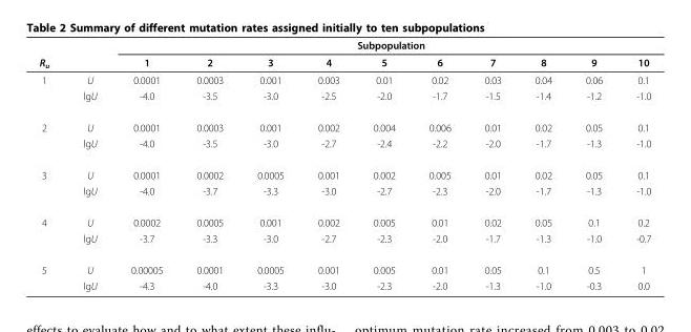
<table><thead><tr><td rowspan="2">R<sub>u</sub></td><td rowspan="2"></td><td colspan="10">Subpopulation</td></tr><tr><td>1</td><td>2</td><td>3</td><td>4</td><td>5</td><td>6</td><td>7</td><td>8</td><td>9</td><td>10</td></tr></thead><tbody><tr><td rowspan="2">1</td><td>U</td><td>0.0001</td><td>0.0003</td><td>0.001</td><td>0.003</td><td>0.01</td><td>0.02</td><td>0.03</td><td>0.04</td><td>0.06</td><td>0.1</td></tr><tr><td>lgU</td><td>-4.0</td><td>-3.5</td><td>-3.0</td><td>-2.5</td><td>-2.0</td><td>-1.7</td><td>-1.5</td><td>-1.4</td><td>-1.2</td><td>-1.0</td></tr><tr><td rowspan="2">2</td><td>U</td><td>0.0001</td><td>0.0003</td><td>0.001</td><td>0.002</td><td>0.004</td><td>0.006</td><td>0.01</td><td>0.02</td><td>0.05</td><td>0.1</td></tr><tr><td>lgU</td><td>-4.0</td><td>-3.5</td><td>-3.0</td><td>-2.7</td><td>-2.4</td><td>-2.2</td><td>-2.0</td><td>-1.7</td><td>-1.3</td><td>-1.0</td></tr><tr><td rowspan="2">3</td><td>U</td><td>0.0001</td><td>0.0002</td><td>0.0005</td><td>0.001</td><td>0.002</td><td>0.005</td><td>0.01</td><td>0.02</td><td>0.05</td><td>0.1</td></tr><tr><td>lgU</td><td>-4.0</td><td>-3.7</td><td>-3.3</td><td>-3.0</td><td>-2.7</td><td>-2.3</td><td>-2.0</td><td>-1.7</td><td>-1.3</td><td>-1.0</td></tr><tr><td rowspan="2">4</td><td>U</td><td>0.0002</td><td>0.0005</td><td>0.001</td><td>0.002</td><td>0.005</td><td>0.01</td><td>0.02</td><td>0.05</td><td>0.1</td><td>0.2</td></tr><tr><td>lgU</td><td>-3.7</td><td>-3.3</td><td>-3.0</td><td>-2.7</td><td>-2.3</td><td>-2.0</td><td>-1.7</td><td>-1.3</td><td>-1.0</td><td>-0.7</td></tr><tr><td rowspan="2">5</td><td>U</td><td>0.00005</td><td>0.0001</td><td>0.0005</td><td>0.001</td><td>0.005</td><td>0.01</td><td>0.05</td><td>0.1</td><td>0.5</td><td>1</td></tr><tr><td>lgU</td><td>-4.3</td><td>-4.0</td><td>-3.3</td><td>-3.0</td><td>-2.3</td><td>-2.0</td><td>-1.3</td><td>-1.0</td><td>-0.3</td><td>0.0</td></tr></tbody></table>